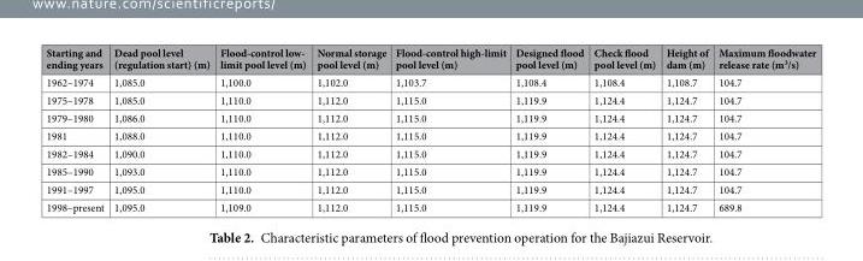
<table><thead><tr><td>Starting and ending years</td><td>Dead pool level (regulation start) (m)</td><td>Flood-control low- limit pool level (m)</td><td>Normal storage pool level (m)</td><td>Flood-control high-limit pool level (m)</td><td>Designed flood pool level (m)</td><td>Check flood pool level (m)</td><td>Height of dam (m)</td><td>Maximum floodwater release rate (m<sup>3</sup>/s)</td></tr></thead><tbody><tr><td>1962–1974</td><td>1,085.0</td><td>1,100.0</td><td>1,102.0</td><td>1,103.7</td><td>1,108.4</td><td>1,108.4</td><td>1,108.7</td><td>104.7</td></tr><tr><td>1975–1978</td><td>1,085.0</td><td>1,110.0</td><td>1,112.0</td><td>1,115.0</td><td>1,119.9</td><td>1,124.4</td><td>1,124.7</td><td>104.7</td></tr><tr><td>1979–1980</td><td>1,086.0</td><td>1,110.0</td><td>1,112.0</td><td>1,115.0</td><td>1,119.9</td><td>1,124.4</td><td>1,124.7</td><td>104.7</td></tr><tr><td>1981</td><td>1,088.0</td><td>1,110.0</td><td>1,112.0</td><td>1,115.0</td><td>1,119.9</td><td>1,124.4</td><td>1,124.7</td><td>104.7</td></tr><tr><td>1982–1984</td><td>1,090.0</td><td>1,110.0</td><td>1,112.0</td><td>1,115.0</td><td>1,119.9</td><td>1,124.4</td><td>1,124.7</td><td>104.7</td></tr><tr><td>1985–1990</td><td>1,093.0</td><td>1,110.0</td><td>1,112.0</td><td>1,115.0</td><td>1,119.9</td><td>1,124.4</td><td>1,124.7</td><td>104.7</td></tr><tr><td>1991–1997</td><td>1,095.0</td><td>1,110.0</td><td>1,112.0</td><td>1,115.0</td><td>1,119.9</td><td>1,124.4</td><td>1,124.7</td><td>104.7</td></tr><tr><td>1998–present</td><td>1,095.0</td><td>1,109.0</td><td>1,112.0</td><td>1,115.0</td><td>1,119.9</td><td>1,124.4</td><td>1,124.7</td><td>689.8</td></tr></tbody></table>